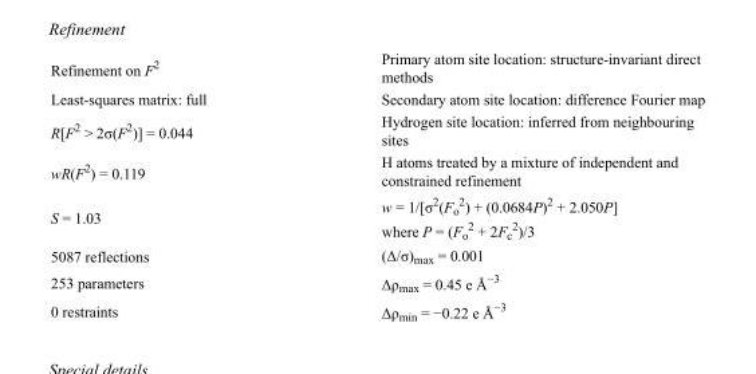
<table><tbody><tr><td>Refinement on F<sup>2</sup></td><td>Primary atom site location: structure-invariant direct methods</td></tr><tr><td>Least-squares matrix: full</td><td>Secondary atom site location: difference Fourier map</td></tr><tr><td>R[F<sup>2</sup> &gt; 2σ(F<sup>2</sup>)] = 0.044</td><td>Hydrogen site location: inferred from neighbouring sites</td></tr><tr><td>wR(F<sup>2</sup>) = 0.119</td><td>H atoms treated by a mixture of independent and constrained refinement</td></tr><tr><td>S = 1.03</td><td>w = 1/[σ<sup>2</sup>(F<sub>o</sub> <sup>2</sup>) + (0.0684P)<sup>2</sup> + 2.050P] where P = (F<sub>o</sub> <sup>2</sup> + 2F<sub>c</sub> <sup>2</sup>)/3</td></tr><tr><td>5087 reflections</td><td>(Δ/σ)<sub>max</sub> = 0.001</td></tr><tr><td>253 parameters</td><td>Δρ<sub>max</sub> = 0.45 e Å<sup>−3</sup></td></tr><tr><td>0 restraints</td><td>Δρ<sub>min</sub> = −0.22 e Å<sup>−3</sup></td></tr></tbody></table>